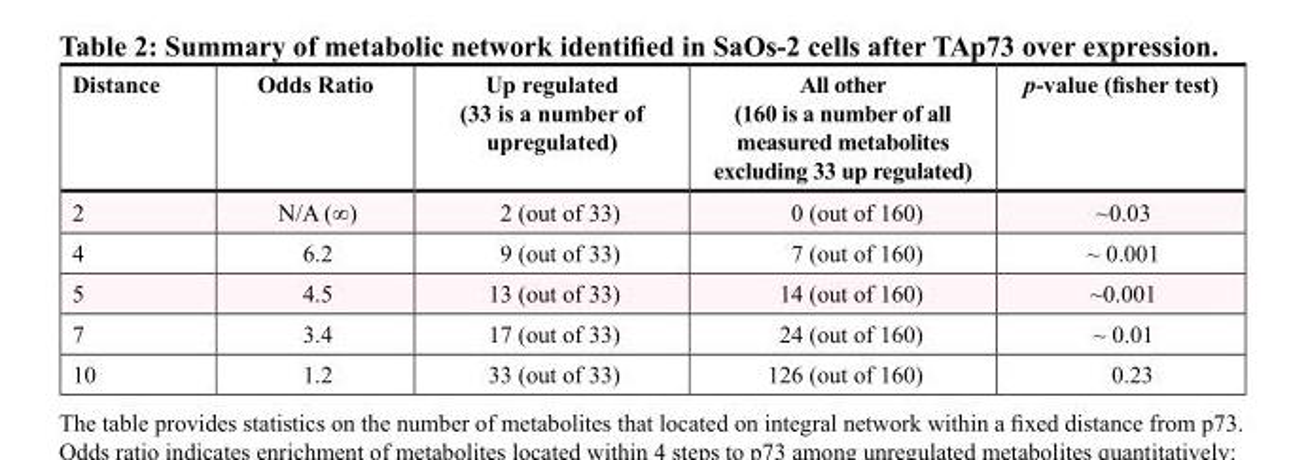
<table><thead><tr><td>Distance</td><td>Odds Ratio</td><td>Up regulated (33 is a number of upregulated)</td><td>All other (160 is a number of all measured metabolites excluding 33 up regulated)</td><td>p-value (fisher test)</td></tr></thead><tbody><tr><td>2</td><td>N/A (∞)</td><td>2 (out of 33)</td><td>0 (out of 160)</td><td>~0.03</td></tr><tr><td>4</td><td>6.2</td><td>9 (out of 33)</td><td>7 (out of 160)</td><td>~ 0.001</td></tr><tr><td>5</td><td>4.5</td><td>13 (out of 33)</td><td>14 (out of 160)</td><td>~0.001</td></tr><tr><td>7</td><td>3.4</td><td>17 (out of 33)</td><td>24 (out of 160)</td><td>~ 0.01</td></tr><tr><td>10</td><td>1.2</td><td>33 (out of 33)</td><td>126 (out of 160)</td><td>0.23</td></tr></tbody></table>